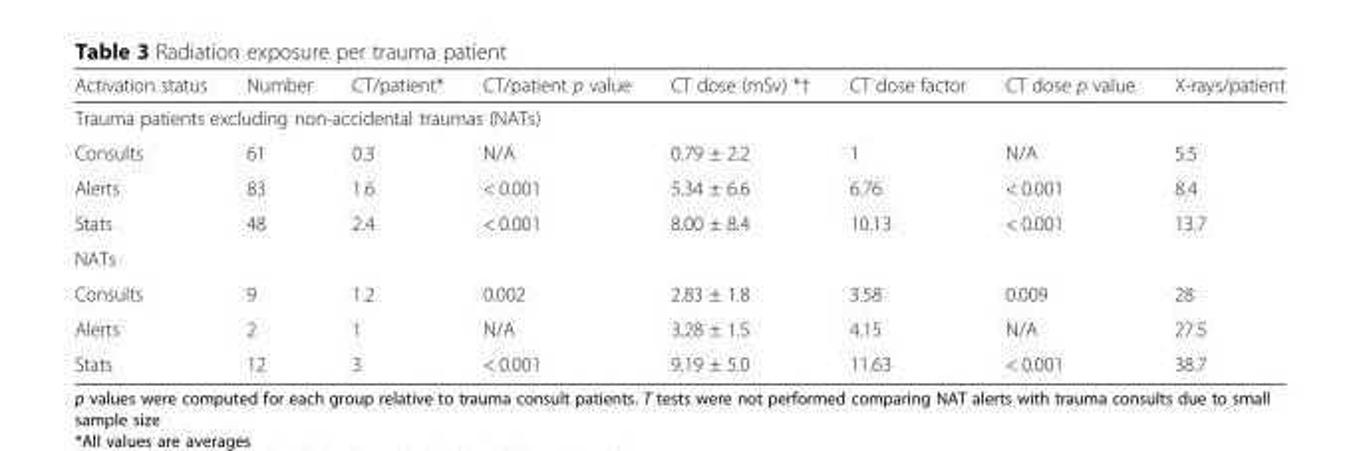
<table><thead><tr><td>Activation status</td><td>Number</td><td>CT/patient*</td><td>CT/patient p value</td><td>CT dose (mSv) *†</td><td>CT dose factor</td><td>CT dose p value</td><td>X-rays/patient</td></tr></thead><tbody><tr><td colspan="8">Trauma patients excluding non-accidental traumas (NATs)</td></tr><tr><td>Consults</td><td>61</td><td>0.3</td><td>N/A</td><td>0.79 ± 2.2</td><td>1</td><td>N/A</td><td>5.5</td></tr><tr><td>Alerts</td><td>83</td><td>1.6</td><td>&lt; 0.001</td><td>5.34 ± 6.6</td><td>6.76</td><td>&lt; 0.001</td><td>8.4</td></tr><tr><td>Stats</td><td>48</td><td>2.4</td><td>&lt; 0.001</td><td>8.00 ± 8.4</td><td>10.13</td><td>&lt; 0.001</td><td>13.7</td></tr><tr><td colspan="8">NATs</td></tr><tr><td>Consults</td><td>9</td><td>1.2</td><td>0.002</td><td>2.83 ± 1.8</td><td>3.58</td><td>0.009</td><td>28</td></tr><tr><td>Alerts</td><td>2</td><td>1</td><td>N/A</td><td>3.28 ± 1.5</td><td>4.15</td><td>N/A</td><td>27.5</td></tr><tr><td>Stats</td><td>12</td><td>3</td><td>&lt; 0.001</td><td>9.19 ± 5.0</td><td>11.63</td><td>&lt; 0.001</td><td>38.7</td></tr></tbody></table>